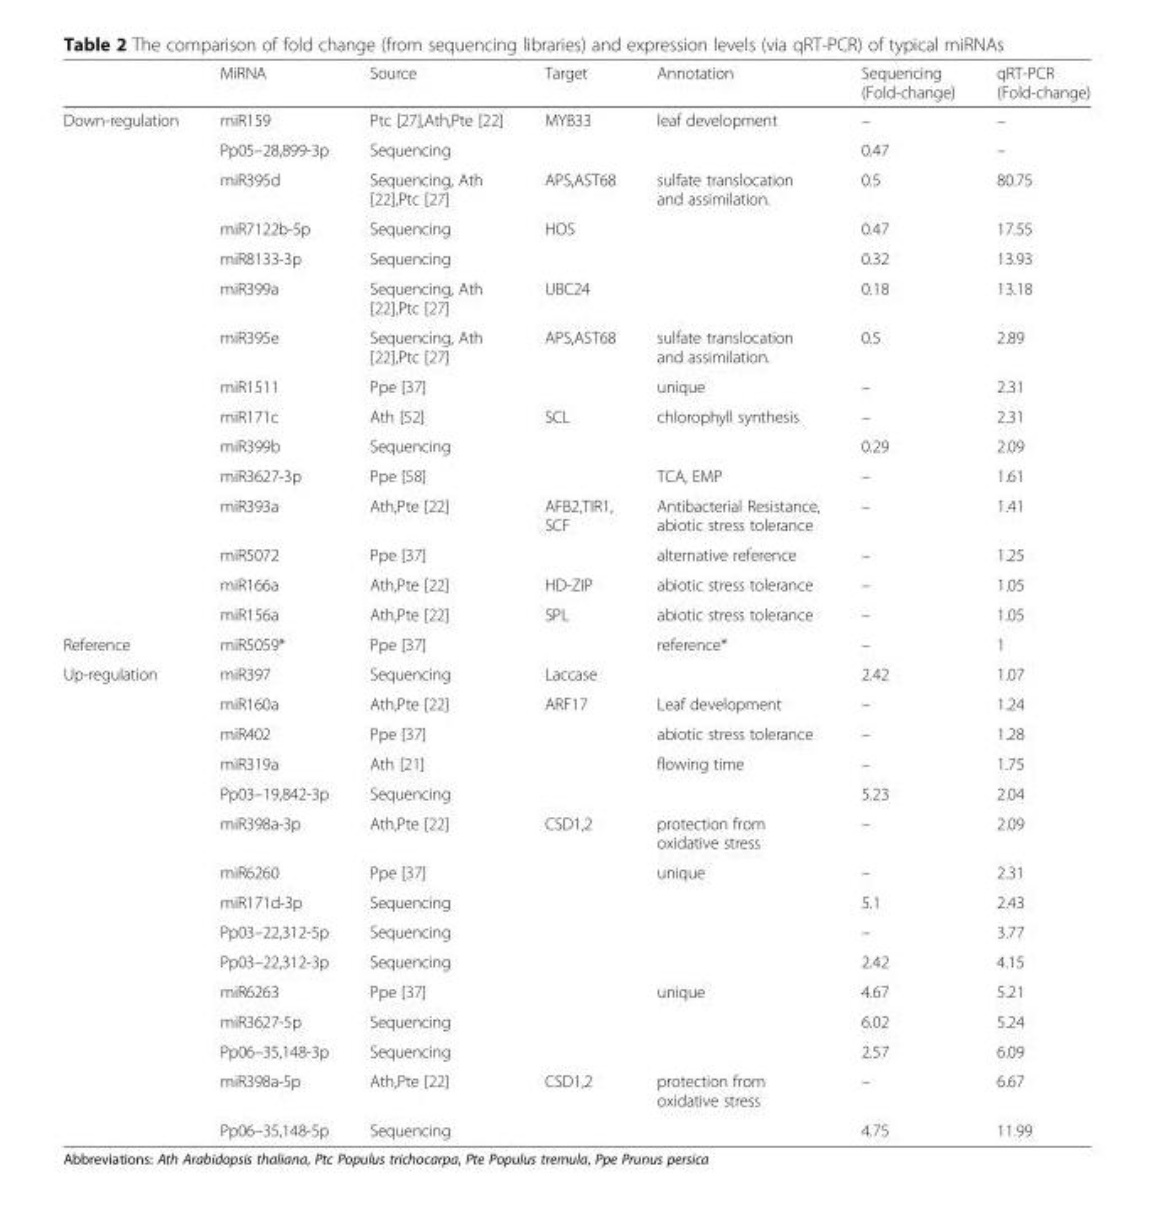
<table><thead><tr><td></td><td>MiRNA</td><td>Source</td><td>Target</td><td>Annotation</td><td>Sequencing (Fold-change)</td><td>qRT-PCR (Fold-change)</td></tr></thead><tbody><tr><td rowspan="15">Down-regulation</td><td>miR159</td><td>Ptc [27],Ath,Pte [22]</td><td>MYB33</td><td>leaf development</td><td>–</td><td>–</td></tr><tr><td>Pp05–28,899-3p</td><td>Sequencing</td><td></td><td></td><td>0.47</td><td>–</td></tr><tr><td>miR395d</td><td>Sequencing, Ath [22],Ptc [27]</td><td>APS,AST68</td><td>sulfate translocation and assimilation.</td><td>0.5</td><td>80.75</td></tr><tr><td>miR7122b-5p</td><td>Sequencing</td><td>HOS</td><td></td><td>0.47</td><td>17.55</td></tr><tr><td>miR8133-3p</td><td>Sequencing</td><td></td><td></td><td>0.32</td><td>13.93</td></tr><tr><td>miR399a</td><td>Sequencing, Ath [22],Ptc [27]</td><td>UBC24</td><td></td><td>0.18</td><td>13.18</td></tr><tr><td>miR395e</td><td>Sequencing, Ath [22],Ptc [27]</td><td>APS,AST68</td><td>sulfate translocation and assimilation.</td><td>0.5</td><td>2.89</td></tr><tr><td>miR1511</td><td>Ppe [37]</td><td></td><td>unique</td><td>–</td><td>2.31</td></tr><tr><td>miR171c</td><td>Ath [52]</td><td>SCL</td><td>chlorophyll synthesis</td><td>–</td><td>2.31</td></tr><tr><td>miR399b</td><td>Sequencing</td><td></td><td></td><td>0.29</td><td>2.09</td></tr><tr><td>miR3627-3p</td><td>Ppe [58]</td><td></td><td>TCA, EMP</td><td>–</td><td>1.61</td></tr><tr><td>miR393a</td><td>Ath,Pte [22]</td><td>AFB2,TIR1, SCF</td><td>Antibacterial Resistance, abiotic stress tolerance</td><td>–</td><td>1.41</td></tr><tr><td>miR5072</td><td>Ppe [37]</td><td></td><td>alternative reference</td><td>–</td><td>1.25</td></tr><tr><td>miR166a</td><td>Ath,Pte [22]</td><td>HD-ZIP</td><td>abiotic stress tolerance</td><td>–</td><td>1.05</td></tr><tr><td>miR156a</td><td>Ath,Pte [22]</td><td>SPL</td><td>abiotic stress tolerance</td><td>–</td><td>1.05</td></tr><tr><td>Reference</td><td>miR5059*</td><td>Ppe [37]</td><td></td><td>reference*</td><td>–</td><td>1</td></tr><tr><td rowspan="15">Up-regulation</td><td>miR397</td><td>Sequencing</td><td>Laccase</td><td></td><td>2.42</td><td>1.07</td></tr><tr><td>miR160a</td><td>Ath,Pte [22]</td><td>ARF17</td><td>Leaf development</td><td>–</td><td>1.24</td></tr><tr><td>miR402</td><td>Ppe [37]</td><td></td><td>abiotic stress tolerance</td><td>–</td><td>1.28</td></tr><tr><td>miR319a</td><td>Ath [21]</td><td></td><td>flowing time</td><td>–</td><td>1.75</td></tr><tr><td>Pp03–19,842-3p</td><td>Sequencing</td><td></td><td></td><td>5.23</td><td>2.04</td></tr><tr><td>miR398a-3p</td><td>Ath,Pte [22]</td><td>CSD1,2</td><td>protection from oxidative stress</td><td>–</td><td>2.09</td></tr><tr><td>miR6260</td><td>Ppe [37]</td><td></td><td>unique</td><td>–</td><td>2.31</td></tr><tr><td>miR171d-3p</td><td>Sequencing</td><td></td><td></td><td>5.1</td><td>2.43</td></tr><tr><td>Pp03–22,312-5p</td><td>Sequencing</td><td></td><td></td><td>–</td><td>3.77</td></tr><tr><td>Pp03–22,312-3p</td><td>Sequencing</td><td></td><td></td><td>2.42</td><td>4.15</td></tr><tr><td>miR6263</td><td>Ppe [37]</td><td></td><td>unique</td><td>4.67</td><td>5.21</td></tr><tr><td>miR3627-5p</td><td>Sequencing</td><td></td><td></td><td>6.02</td><td>5.24</td></tr><tr><td>Pp06–35,148-3p</td><td>Sequencing</td><td></td><td></td><td>2.57</td><td>6.09</td></tr><tr><td>miR398a-5p</td><td>Ath,Pte [22]</td><td>CSD1,2</td><td>protection from oxidative stress</td><td>–</td><td>6.67</td></tr><tr><td>Pp06–35,148-5p</td><td>Sequencing</td><td></td><td></td><td>4.75</td><td>11.99</td></tr></tbody></table>